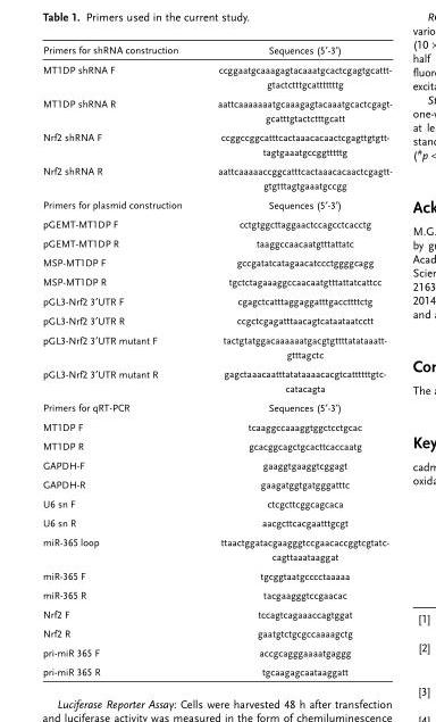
<table><thead><tr><td>Primers for shRNA construction</td><td>Sequences (5′-3′)</td></tr></thead><tbody><tr><td>MT1DP shRNA F</td><td>ccggaatgcaaagagtacaaatgcactcgagtgcattt- gtactctttgcatttttttg</td></tr><tr><td>MT1DP shRNA R</td><td>aattcaaaaaaatgcaaagagtacaaatgcactcgagt- gcatttgtactctttgcatt</td></tr><tr><td>Nrf2 shRNA F</td><td>ccggccggcatttcactaaacacaactcgagttgtgtt- tagtgaaatgccggtttttg</td></tr><tr><td>Nrf2 shRNA R</td><td>aattcaaaaaccggcatttcactaaacacaactcgagtt- gtgtttagtgaaatgccgg</td></tr><tr><td>Primers for plasmid construction</td><td>Sequences (5′-3′)</td></tr><tr><td>pGEMT-MT1DP F</td><td>cctgtggcttaggaactccagcctcacctg</td></tr><tr><td>pGEMT-MT1DP R</td><td>taaggccaacaatgtttattatc</td></tr><tr><td>MSP-MT1DP F</td><td>gccgatatcatagaacatccctggggcagg</td></tr><tr><td>MSP-MT1DP R</td><td>tgctctagaaaggccaacaatgtttattatcattcc</td></tr><tr><td>pGL3-Nrf2 3′UTR F</td><td>cgagctcatttaggaggatttgaccttttctg</td></tr><tr><td>pGL3-Nrf2 3′UTR R</td><td>ccgctcgagatttaacagtcataataatcctt</td></tr><tr><td>pGL3-Nrf2 3′UTR mutant F</td><td>tactgtatggacaaaaaatgacgtgttttatataaatt- gtttagctc</td></tr><tr><td>pGL3-Nrf2 3′UTR mutant R</td><td>gagctaaacaatttatataaaacacgtcattttttgtc- catacagta</td></tr><tr><td>Primers for qRT-PCR</td><td>Sequences (5′-3′)</td></tr><tr><td>MT1DP F</td><td>tcaaggccaaaggtggctcctgcac</td></tr><tr><td>MT1DP R</td><td>gcacggcagctgcacttcaccaatg</td></tr><tr><td>GAPDH-F</td><td>gaaggtgaaggtcggagt</td></tr><tr><td>GAPDH-R</td><td>gaagatggtgatgggatttc</td></tr><tr><td>U6 sn F</td><td>ctcgcttcggcagcaca</td></tr><tr><td>U6 sn R</td><td>aacgcttcacgaatttgcgt</td></tr><tr><td>miR-365 loop</td><td>ttaactggatacgaagggtccgaacaccggtcgtatc- cagttaaataaggat</td></tr><tr><td>miR-365 F</td><td>tgcggtaatgcccctaaaaa</td></tr><tr><td>miR-365 R</td><td>tacgaagggtccgaacac</td></tr><tr><td>Nrf2 F</td><td>tccagtcagaaaccagtggat</td></tr><tr><td>Nrf2 R</td><td>gaatgtctgcgccaaaagctg</td></tr><tr><td>pri-miR 365 F</td><td>accgcagggaaaatgaggg</td></tr><tr><td>pri-miR 365 R</td><td>tgcaagagcaataaggatt</td></tr></tbody></table>